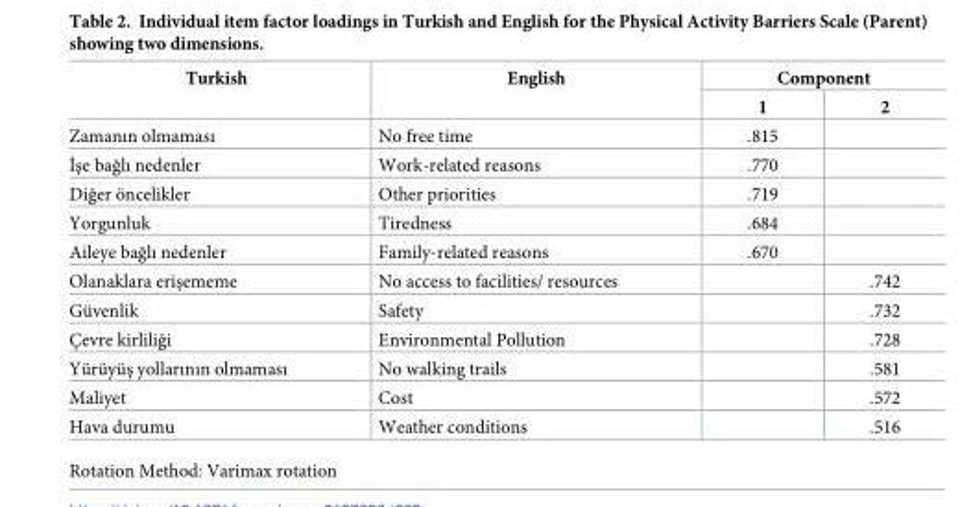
<table><thead><tr><td rowspan="2">Turkish</td><td rowspan="2">English</td><td colspan="2">Component</td></tr><tr><td>1</td><td>2</td></tr></thead><tbody><tr><td>Zamanın olmaması</td><td>No free time</td><td>.815</td><td></td></tr><tr><td>İşe bağlı nedenler</td><td>Work-related reasons</td><td>.770</td><td></td></tr><tr><td>Diğer o¨ncelikler</td><td>Other priorities</td><td>.719</td><td></td></tr><tr><td>Yorgunluk</td><td>Tiredness</td><td>.684</td><td></td></tr><tr><td>Aileye bağlı nedenler</td><td>Family-related reasons</td><td>.670</td><td></td></tr><tr><td>Olanaklara erişememe</td><td>No access to facilities/ resources</td><td></td><td>.742</td></tr><tr><td>Gu¨venlik</td><td>Safety</td><td></td><td>.732</td></tr><tr><td>C¸evre kirliliği</td><td>Environmental Pollution</td><td></td><td>.728</td></tr><tr><td>Yu¨ru¨yu¨ş yollarının olmaması</td><td>No walking trails</td><td></td><td>.581</td></tr><tr><td>Maliyet</td><td>Cost</td><td></td><td>.572</td></tr><tr><td>Hava durumu</td><td>Weather conditions</td><td></td><td>.516</td></tr></tbody></table>